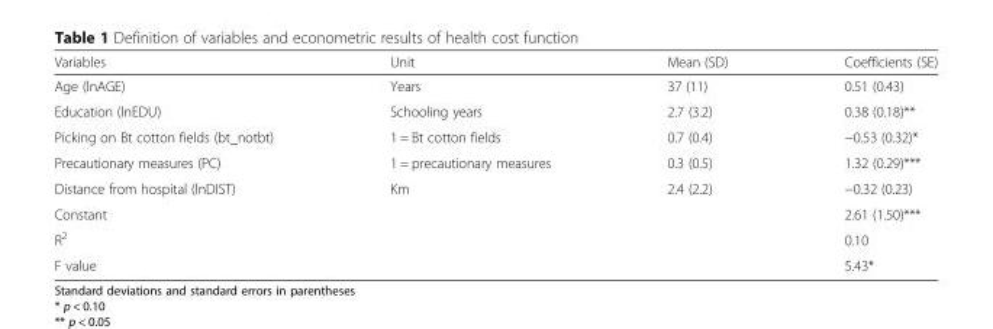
<table><thead><tr><td>Variables</td><td>Unit</td><td>Mean (SD)</td><td>Coefficients (SE)</td></tr></thead><tbody><tr><td>Age (lnAGE)</td><td>Years</td><td>37 (11)</td><td>0.51 (0.43)</td></tr><tr><td>Education (lnEDU)</td><td>Schooling years</td><td>2.7 (3.2)</td><td>0.38 (0.18)**</td></tr><tr><td>Picking on Bt cotton fields (bt_notbt)</td><td>1 = Bt cotton fields</td><td>0.7 (0.4)</td><td>−0.53 (0.32)*</td></tr><tr><td>Precautionary measures (PC)</td><td>1 = precautionary measures</td><td>0.3 (0.5)</td><td>1.32 (0.29)***</td></tr><tr><td>Distance from hospital (lnDIST)</td><td>Km</td><td>2.4 (2.2)</td><td>−0.32 (0.23)</td></tr><tr><td>Constant</td><td></td><td></td><td>2.61 (1.50)***</td></tr><tr><td>R<sup>2</sup></td><td></td><td></td><td>0.10</td></tr><tr><td>F value</td><td></td><td></td><td>5.43*</td></tr></tbody></table>